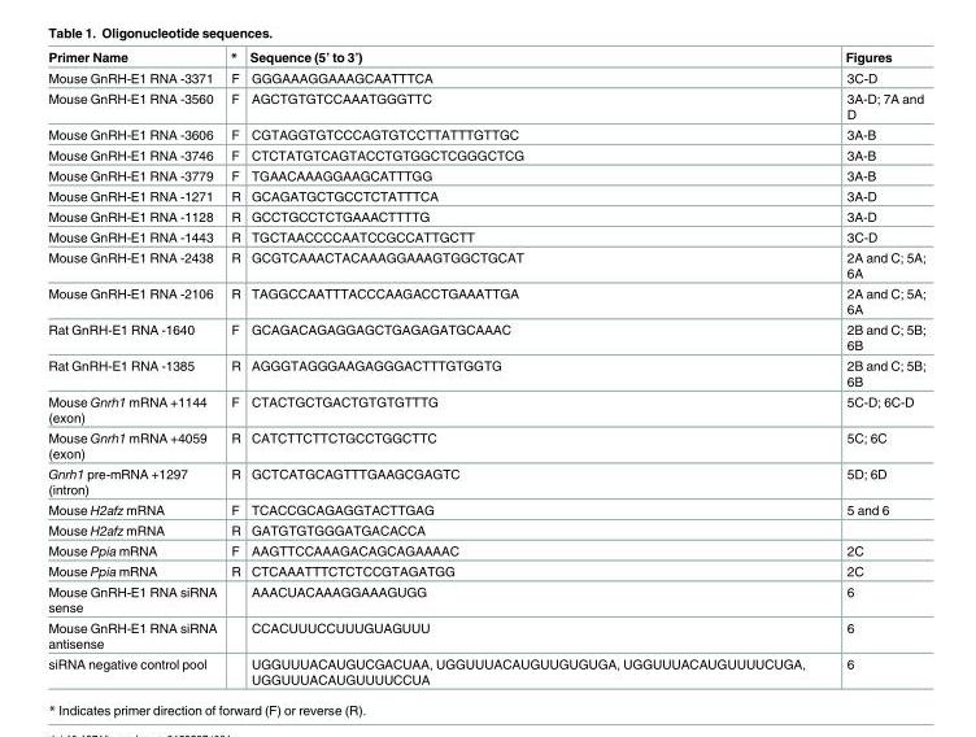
<table><thead><tr><td>Primer Name</td><td>*</td><td>Sequence (5’ to 3’)</td><td>Figures</td></tr></thead><tbody><tr><td>Mouse GnRH-E1 RNA -3371</td><td>F</td><td>GGGAAAGGAAAGCAATTTCA</td><td>3C-D</td></tr><tr><td>Mouse GnRH-E1 RNA -3560</td><td>F</td><td>AGCTGTGTCCAAATGGGTTC</td><td>3A-D; 7A and D</td></tr><tr><td>Mouse GnRH-E1 RNA -3606</td><td>F</td><td>CGTAGGTGTCCCAGTGTCCTTATTTGTTGC</td><td>3A-B</td></tr><tr><td>Mouse GnRH-E1 RNA -3746</td><td>F</td><td>CTCTATGTCAGTACCTGTGGCTCGGGCTCG</td><td>3A-B</td></tr><tr><td>Mouse GnRH-E1 RNA -3779</td><td>F</td><td>TGAACAAAGGAAGCATTTGG</td><td>3A-B</td></tr><tr><td>Mouse GnRH-E1 RNA -1271</td><td>R</td><td>GCAGATGCTGCCTCTATTTCA</td><td>3A-D</td></tr><tr><td>Mouse GnRH-E1 RNA -1128</td><td>R</td><td>GCCTGCCTCTGAAACTTTTG</td><td>3A-D</td></tr><tr><td>Mouse GnRH-E1 RNA -1443</td><td>R</td><td>TGCTAACCCCAATCCGCCATTGCTT</td><td>3C-D</td></tr><tr><td>Mouse GnRH-E1 RNA -2438</td><td>R</td><td>GCGTCAAACTACAAAGGAAAGTGGCTGCAT</td><td>2A and C; 5A; 6A</td></tr><tr><td>Mouse GnRH-E1 RNA -2106</td><td>R</td><td>TAGGCCAATTTACCCAAGACCTGAAATTGA</td><td>2A and C; 5A; 6A</td></tr><tr><td>Rat GnRH-E1 RNA -1640</td><td>F</td><td>GCAGACAGAGGAGCTGAGAGATGCAAAC</td><td>2B and C; 5B; 6B</td></tr><tr><td>Rat GnRH-E1 RNA -1385</td><td>R</td><td>AGGGTAGGGAAGAGGGACTTTGTGGTG</td><td>2B and C; 5B; 6B</td></tr><tr><td>Mouse Gnrh1 mRNA +1144 (exon)</td><td>F</td><td>CTACTGCTGACTGTGTGTTTG</td><td>5C-D; 6C-D</td></tr><tr><td>Mouse Gnrh1 mRNA +4059 (exon)</td><td>R</td><td>CATCTTCTTCTGCCTGGCTTC</td><td>5C; 6C</td></tr><tr><td>Gnrh1 pre-mRNA +1297 (intron)</td><td>R</td><td>GCTCATGCAGTTTGAAGCGAGTC</td><td>5D; 6D</td></tr><tr><td>Mouse H2afz mRNA</td><td>F</td><td>TCACCGCAGAGGTACTTGAG</td><td>5 and 6</td></tr><tr><td>Mouse H2afz mRNA</td><td>R</td><td>GATGTGTGGGATGACACCA</td><td></td></tr><tr><td>Mouse Ppia mRNA</td><td>F</td><td>AAGTTCCAAAGACAGCAGAAAAC</td><td>2C</td></tr><tr><td>Mouse Ppia mRNA</td><td>R</td><td>CTCAAATTTCTCTCCGTAGATGG</td><td>2C</td></tr><tr><td>Mouse GnRH-E1 RNA siRNA sense</td><td></td><td>AAACUACAAAGGAAAGUGG</td><td>6</td></tr><tr><td>Mouse GnRH-E1 RNA siRNA antisense</td><td></td><td>CCACUUUCCUUUGUAGUUU</td><td>6</td></tr><tr><td>siRNA negative control pool</td><td></td><td>UGGUUUACAUGUCGACUAA, UGGUUUACAUGUUGUGUGA, UGGUUUACAUGUUUUCUGA, UGGUUUACAUGUUUUCCUA</td><td>6</td></tr></tbody></table>